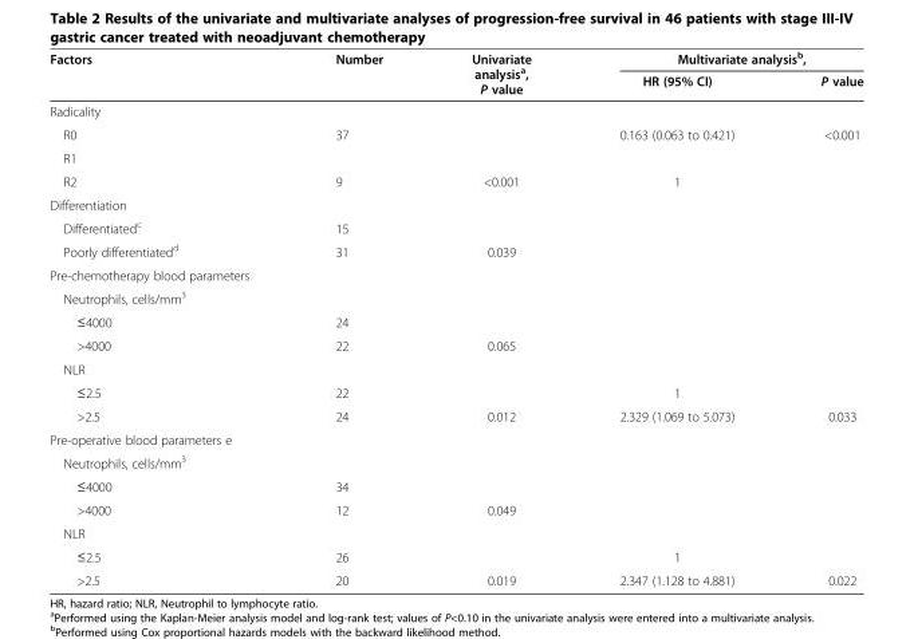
<table><thead><tr><td rowspan="2">Factors</td><td rowspan="2">Number</td><td rowspan="2">Univariate analysis<sup>a</sup>, P value</td><td colspan="2">Multivariate analysis<sup>b</sup>,</td></tr><tr><td>HR (95% CI)</td><td>P value</td></tr></thead><tbody><tr><td colspan="5">Radicality</td></tr><tr><td>R0</td><td>37</td><td></td><td>0.163 (0.063 to 0.421)</td><td>&lt;0.001</td></tr><tr><td colspan="5">R1</td></tr><tr><td>R2</td><td>9</td><td>&lt;0.001</td><td>1</td><td></td></tr><tr><td colspan="5">Differentiation</td></tr><tr><td>Differentiated<sup>c</sup></td><td>15</td><td></td><td></td><td></td></tr><tr><td>Poorly differentiated<sup>d</sup></td><td>31</td><td>0.039</td><td></td><td></td></tr><tr><td colspan="5">Pre-chemotherapy blood parameters</td></tr><tr><td colspan="5">Neutrophils, cells/mm<sup>3</sup></td></tr><tr><td>≤4000</td><td>24</td><td></td><td></td><td></td></tr><tr><td>&gt;4000</td><td>22</td><td>0.065</td><td></td><td></td></tr><tr><td colspan="5">NLR</td></tr><tr><td>≤2.5</td><td>22</td><td></td><td>1</td><td></td></tr><tr><td>&gt;2.5</td><td>24</td><td>0.012</td><td>2.329 (1.069 to 5.073)</td><td>0.033</td></tr><tr><td colspan="5">Pre-operative blood parameters e</td></tr><tr><td colspan="5">Neutrophils, cells/mm<sup>3</sup></td></tr><tr><td>≤4000</td><td>34</td><td></td><td></td><td></td></tr><tr><td>&gt;4000</td><td>12</td><td>0.049</td><td></td><td></td></tr><tr><td colspan="5">NLR</td></tr><tr><td>≤2.5</td><td>26</td><td></td><td>1</td><td></td></tr><tr><td>&gt;2.5</td><td>20</td><td>0.019</td><td>2.347 (1.128 to 4.881)</td><td>0.022</td></tr></tbody></table>